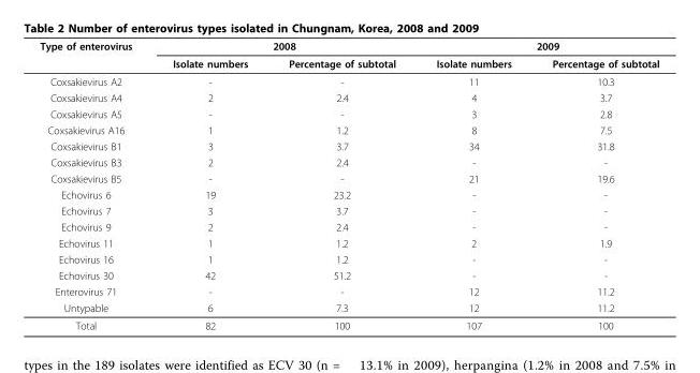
<table><thead><tr><td rowspan="2">Type of enterovirus</td><td colspan="2">2008</td><td colspan="2">2009</td></tr><tr><td>Isolate numbers</td><td>Percentage of subtotal</td><td>Isolate numbers</td><td>Percentage of subtotal</td></tr></thead><tbody><tr><td>Coxsakievirus A2</td><td>-</td><td>-</td><td>11</td><td>10.3</td></tr><tr><td>Coxsakievirus A4</td><td>2</td><td>2.4</td><td>4</td><td>3.7</td></tr><tr><td>Coxsakievirus A5</td><td>-</td><td>-</td><td>3</td><td>2.8</td></tr><tr><td>Coxsakievirus A16</td><td>1</td><td>1.2</td><td>8</td><td>7.5</td></tr><tr><td>Coxsakievirus B1</td><td>3</td><td>3.7</td><td>34</td><td>31.8</td></tr><tr><td>Coxsakievirus B3</td><td>2</td><td>2.4</td><td>-</td><td>-</td></tr><tr><td>Coxsakievirus B5</td><td>-</td><td>-</td><td>21</td><td>19.6</td></tr><tr><td>Echovirus 6</td><td>19</td><td>23.2</td><td>-</td><td>-</td></tr><tr><td>Echovirus 7</td><td>3</td><td>3.7</td><td>-</td><td>-</td></tr><tr><td>Echovirus 9</td><td>2</td><td>2.4</td><td>-</td><td>-</td></tr><tr><td>Echovirus 11</td><td>1</td><td>1.2</td><td>2</td><td>1.9</td></tr><tr><td>Echovirus 16</td><td>1</td><td>1.2</td><td>-</td><td>-</td></tr><tr><td>Echovirus 30</td><td>42</td><td>51.2</td><td>-</td><td>-</td></tr><tr><td>Enterovirus 71</td><td>-</td><td>-</td><td>12</td><td>11.2</td></tr><tr><td>Untypable</td><td>6</td><td>7.3</td><td>12</td><td>11.2</td></tr><tr><td>Total</td><td>82</td><td>100</td><td>107</td><td>100</td></tr></tbody></table>